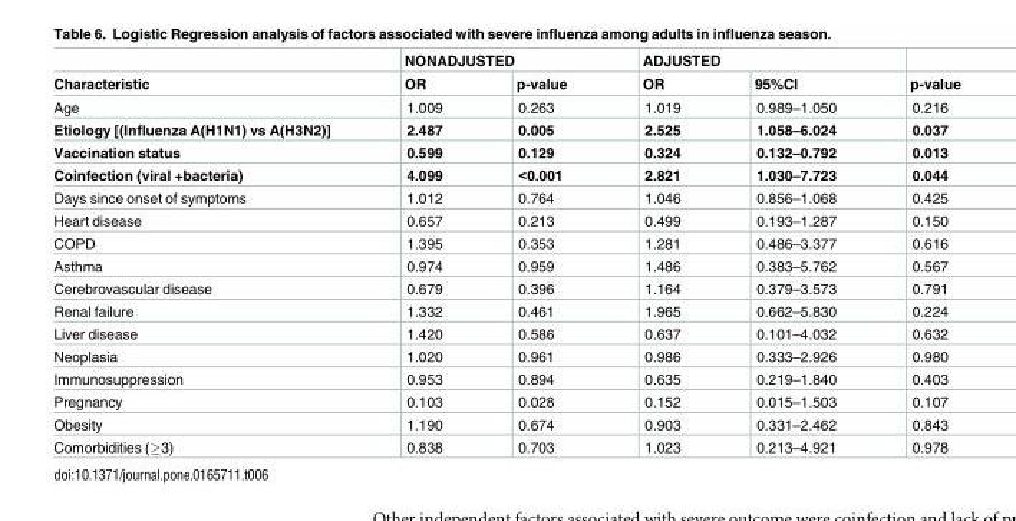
<table><thead><tr><td rowspan="2">Characteristic</td><td colspan="2">NONADJUSTED</td><td colspan="2">ADJUSTED</td><td rowspan="2">p-value</td></tr><tr><td>OR</td><td>p-value</td><td>OR</td><td>95%CI</td></tr></thead><tbody><tr><td>Age</td><td>1.009</td><td>0.263</td><td>1.019</td><td>0.989–1.050</td><td>0.216</td></tr><tr><td>Etiology [(Influenza A(H1N1) vs A(H3N2)]</td><td>2.487</td><td>0.005</td><td>2.525</td><td>1.058–6.024</td><td>0.037</td></tr><tr><td>Vaccination status</td><td>0.599</td><td>0.129</td><td>0.324</td><td>0.132–0.792</td><td>0.013</td></tr><tr><td>Coinfection (viral +bacteria)</td><td>4.099</td><td>&lt;0.001</td><td>2.821</td><td>1.030–7.723</td><td>0.044</td></tr><tr><td>Days since onset of symptoms</td><td>1.012</td><td>0.764</td><td>1.046</td><td>0.856–1.068</td><td>0.425</td></tr><tr><td>Heart disease</td><td>0.657</td><td>0.213</td><td>0.499</td><td>0.193–1.287</td><td>0.150</td></tr><tr><td>COPD</td><td>1.395</td><td>0.353</td><td>1.281</td><td>0.486–3.377</td><td>0.616</td></tr><tr><td>Asthma</td><td>0.974</td><td>0.959</td><td>1.486</td><td>0.383–5.762</td><td>0.567</td></tr><tr><td>Cerebrovascular disease</td><td>0.679</td><td>0.396</td><td>1.164</td><td>0.379–3.573</td><td>0.791</td></tr><tr><td>Renal failure</td><td>1.332</td><td>0.461</td><td>1.965</td><td>0.662–5.830</td><td>0.224</td></tr><tr><td>Liver disease</td><td>1.420</td><td>0.586</td><td>0.637</td><td>0.101–4.032</td><td>0.632</td></tr><tr><td>Neoplasia</td><td>1.020</td><td>0.961</td><td>0.986</td><td>0.333–2.926</td><td>0.980</td></tr><tr><td>Immunosuppression</td><td>0.953</td><td>0.894</td><td>0.635</td><td>0.219–1.840</td><td>0.403</td></tr><tr><td>Pregnancy</td><td>0.103</td><td>0.028</td><td>0.152</td><td>0.015–1.503</td><td>0.107</td></tr><tr><td>Obesity</td><td>1.190</td><td>0.674</td><td>0.903</td><td>0.331–2.462</td><td>0.843</td></tr><tr><td>Comorbidities (≥3)</td><td>0.838</td><td>0.703</td><td>1.023</td><td>0.213–4.921</td><td>0.978</td></tr></tbody></table>